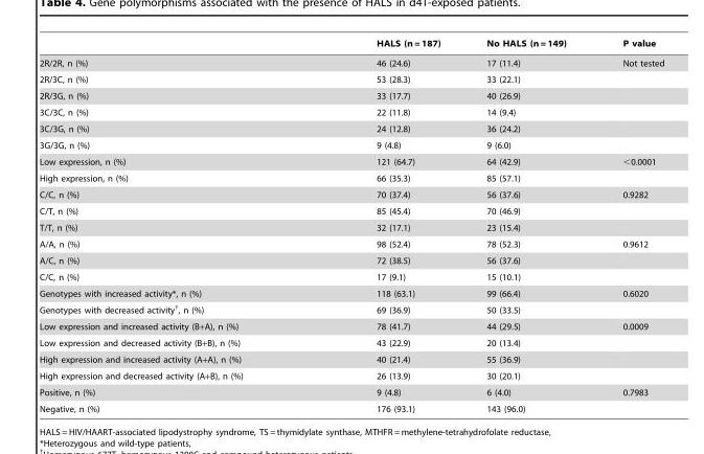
<table><thead><tr><td></td><td>HALS (n = 187)</td><td>No HALS (n = 149)</td><td>P value</td></tr></thead><tbody><tr><td>2R/2R, n (%)</td><td>46 (24.6)</td><td>17 (11.4)</td><td>Not tested</td></tr><tr><td>2R/3C, n (%)</td><td>53 (28.3)</td><td>33 (22.1)</td><td></td></tr><tr><td>2R/3G, n (%)</td><td>33 (17.7)</td><td>40 (26.9)</td><td></td></tr><tr><td>3C/3C, n (%)</td><td>22 (11.8)</td><td>14 (9.4)</td><td></td></tr><tr><td>3C/3G, n (%)</td><td>24 (12.8)</td><td>36 (24.2)</td><td></td></tr><tr><td>3G/3G, n (%)</td><td>9 (4.8)</td><td>9 (6.0)</td><td></td></tr><tr><td>Low expression, n (%)</td><td>121 (64.7)</td><td>64 (42.9)</td><td>&lt;0.0001</td></tr><tr><td>High expression, n (%)</td><td>66 (35.3)</td><td>85 (57.1)</td><td></td></tr><tr><td>C/C, n (%)</td><td>70 (37.4)</td><td>56 (37.6)</td><td>0.9282</td></tr><tr><td>C/T, n (%)</td><td>85 (45.4)</td><td>70 (46.9)</td><td></td></tr><tr><td>T/T, n (%)</td><td>32 (17.1)</td><td>23 (15.4)</td><td></td></tr><tr><td>A/A, n (%)</td><td>98 (52.4)</td><td>78 (52.3)</td><td>0.9612</td></tr><tr><td>A/C, n (%)</td><td>72 (38.5)</td><td>56 (37.6)</td><td></td></tr><tr><td>C/C, n (%)</td><td>17 (9.1)</td><td>15 (10.1)</td><td></td></tr><tr><td>Genotypes with increased activity*, n (%)</td><td>118 (63.1)</td><td>99 (66.4)</td><td>0.6020</td></tr><tr><td>Genotypes with decreased activity†, n (%)</td><td>69 (36.9)</td><td>50 (33.5)</td><td></td></tr><tr><td>Low expression and increased activity (B+A), n (%)</td><td>78 (41.7)</td><td>44 (29.5)</td><td>0.0009</td></tr><tr><td>Low expression and decreased activity (B+B), n (%)</td><td>43 (22.9)</td><td>20 (13.4)</td><td></td></tr><tr><td>High expression and increased activity (A+A), n (%)</td><td>40 (21.4)</td><td>55 (36.9)</td><td></td></tr><tr><td>High expression and decreased activity (A+B), n (%)</td><td>26 (13.9)</td><td>30 (20.1)</td><td></td></tr><tr><td>Positive, n (%)</td><td>9 (4.8)</td><td>6 (4.0)</td><td>0.7983</td></tr><tr><td>Negative, n (%)</td><td>176 (93.1)</td><td>143 (96.0)</td><td></td></tr></tbody></table>